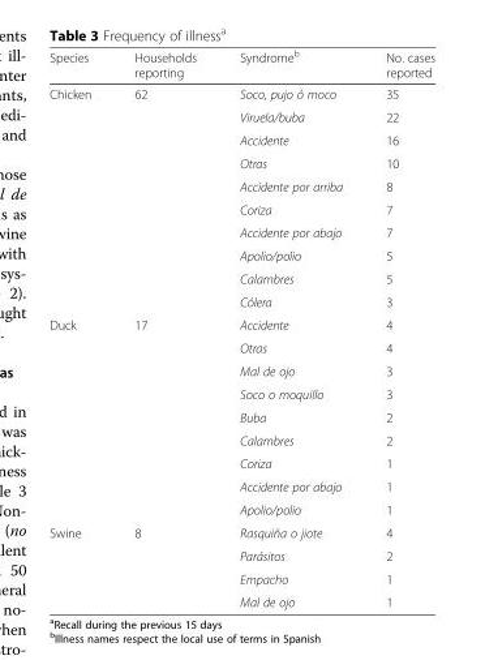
<table><thead><tr><td>Species</td><td>Households reporting</td><td>Syndrome<sup>b</sup></td><td>No. cases reported</td></tr></thead><tbody><tr><td rowspan="10">Chicken</td><td rowspan="10">62</td><td>Soco, pujo ó moco</td><td>35</td></tr><tr><td>Viruela/buba</td><td>22</td></tr><tr><td>Accidente</td><td>16</td></tr><tr><td>Otras</td><td>10</td></tr><tr><td>Accidente por arriba</td><td>8</td></tr><tr><td>Coriza</td><td>7</td></tr><tr><td>Accidente por abajo</td><td>7</td></tr><tr><td>Apolio/polio</td><td>5</td></tr><tr><td>Calambres</td><td>5</td></tr><tr><td>Cólera</td><td>3</td></tr><tr><td rowspan="9">Duck</td><td rowspan="9">17</td><td>Accidente</td><td>4</td></tr><tr><td>Otras</td><td>4</td></tr><tr><td>Mal de ojo</td><td>3</td></tr><tr><td>Soco o moquillo</td><td>3</td></tr><tr><td>Buba</td><td>2</td></tr><tr><td>Calambres</td><td>2</td></tr><tr><td>Coriza</td><td>1</td></tr><tr><td>Accidente por abajo</td><td>1</td></tr><tr><td>Apolio/polio</td><td>1</td></tr><tr><td rowspan="4">Swine</td><td rowspan="4">8</td><td>Rasquiña o jiote</td><td>4</td></tr><tr><td>Parásitos</td><td>2</td></tr><tr><td>Empacho</td><td>1</td></tr><tr><td>Mal de ojo</td><td>1</td></tr></tbody></table>